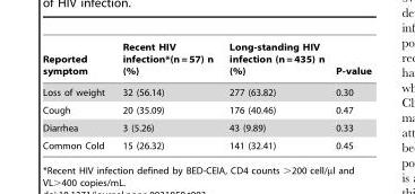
<table><thead><tr><td>Reported symptom</td><td>Recent HIV infection*(n = 57) n (%)</td><td>Long-standing HIV infection (n = 435) n (%)</td><td>P-value</td></tr></thead><tbody><tr><td>Loss of weight</td><td>32 (56.14)</td><td>277 (63.82)</td><td>0.30</td></tr><tr><td>Cough</td><td>20 (35.09)</td><td>176 (40.46)</td><td>0.47</td></tr><tr><td>Diarrhea</td><td>3 (5.26)</td><td>43 (9.89)</td><td>0.33</td></tr><tr><td>Common Cold</td><td>15 (26.32)</td><td>141 (32.41)</td><td>0.45</td></tr></tbody></table>